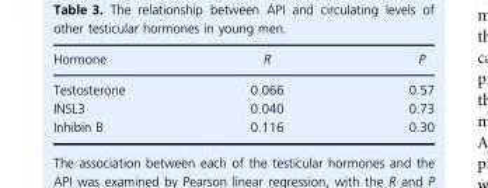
<table><thead><tr><td>Hormone</td><td>R</td><td>P</td></tr></thead><tbody><tr><td>Testosterone</td><td>0.066</td><td>0.57</td></tr><tr><td>INSL3</td><td>0.040</td><td>0.73</td></tr><tr><td>Inhibin B</td><td>0.116</td><td>0.30</td></tr></tbody></table>